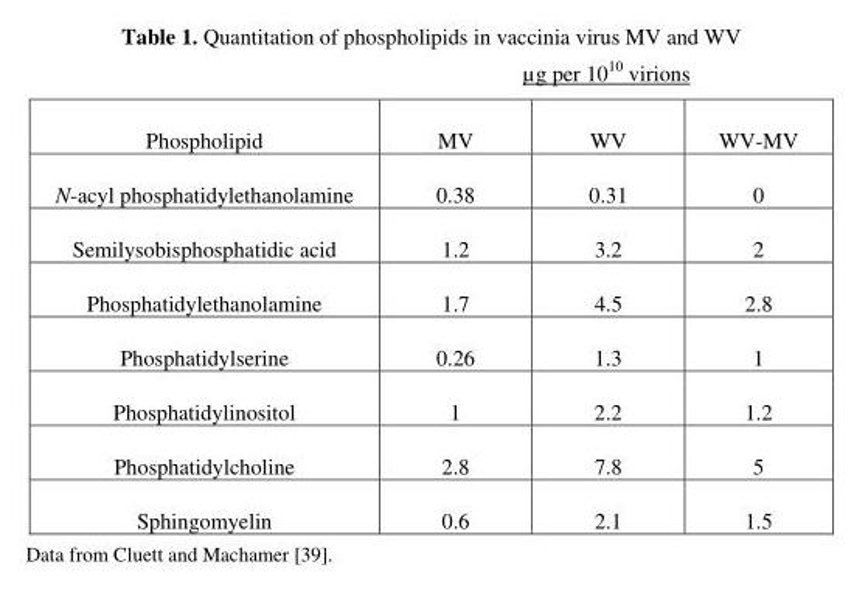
<table><thead><tr><td rowspan="2">Phospholipid</td><td colspan="3">µg per 10<sup>10</sup> virions</td></tr><tr><td>MV</td><td>WV</td><td>WV-MV</td></tr></thead><tbody><tr><td>N-acyl phosphatidylethanolamine</td><td>0.38</td><td>0.31</td><td>0</td></tr><tr><td>Semilysobisphosphatidic acid</td><td>1.2</td><td>3.2</td><td>2</td></tr><tr><td>Phosphatidylethanolamine</td><td>1.7</td><td>4.5</td><td>2.8</td></tr><tr><td>Phosphatidylserine</td><td>0.26</td><td>1.3</td><td>1</td></tr><tr><td>Phosphatidylinositol</td><td>1</td><td>2.2</td><td>1.2</td></tr><tr><td>Phosphatidylcholine</td><td>2.8</td><td>7.8</td><td>5</td></tr><tr><td>Sphingomyelin</td><td>0.6</td><td>2.1</td><td>1.5</td></tr></tbody></table>